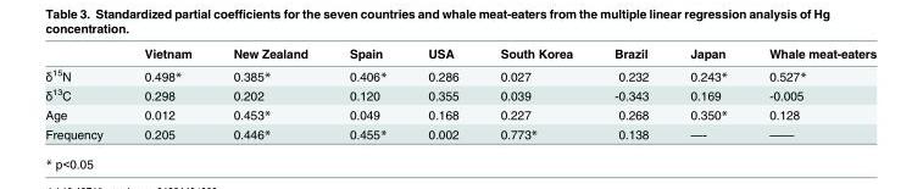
<table><thead><tr><td></td><td>Vietnam</td><td>New Zealand</td><td>Spain</td><td>USA</td><td>South Korea</td><td>Brazil</td><td>Japan</td><td>Whale meat-eaters</td></tr></thead><tbody><tr><td>δ<sup>15</sup>N</td><td>0.498*</td><td>0.385*</td><td>0.406*</td><td>0.286</td><td>0.027</td><td>0.232</td><td>0.243*</td><td>0.527*</td></tr><tr><td>δ<sup>13</sup>C</td><td>0.298</td><td>0.202</td><td>0.120</td><td>0.355</td><td>0.039</td><td>-0.343</td><td>0.169</td><td>-0.005</td></tr><tr><td>Age</td><td>0.012</td><td>0.453*</td><td>0.049</td><td>0.168</td><td>0.227</td><td>0.268</td><td>0.350*</td><td>0.128</td></tr><tr><td>Frequency</td><td>0.205</td><td>0.446*</td><td>0.455*</td><td>0.002</td><td>0.773*</td><td>0.138</td><td>—-</td><td>——</td></tr></tbody></table>